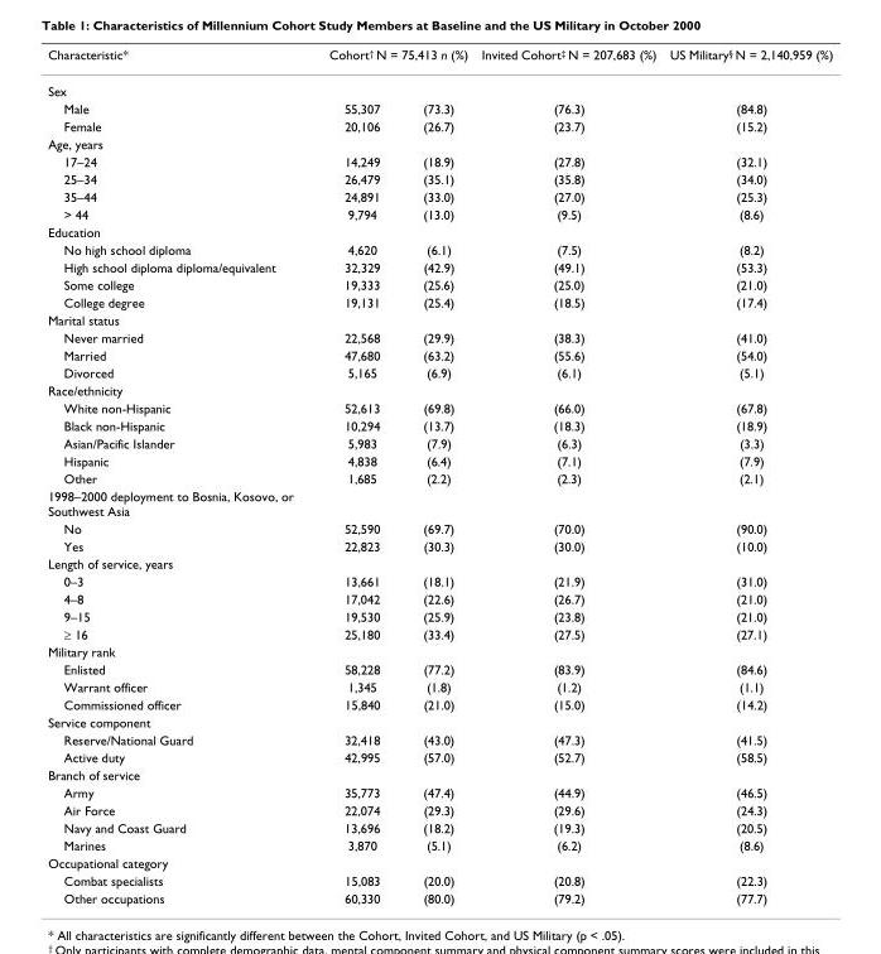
<table><thead><tr><td rowspan="2">Characteristic* Sex</td><td colspan="2">Cohort<sup>†</sup> N = 75,413 n (%)</td><td rowspan="2">Invited Cohort<sup>‡</sup> N = 207,683 (%)</td><td rowspan="2">US Military<sup>§</sup> N = 2,140,959 (%)</td></tr><tr><td></td><td></td></tr></thead><tbody><tr><td>Male</td><td>55,307</td><td>(73.3)</td><td>(76.3)</td><td>(84.8)</td></tr><tr><td>Female</td><td>20,106</td><td>(26.7)</td><td>(23.7)</td><td>(15.2)</td></tr><tr><td colspan="5">Age, years</td></tr><tr><td>17–24</td><td>14,249</td><td>(18.9)</td><td>(27.8)</td><td>(32.1)</td></tr><tr><td>25–34</td><td>26,479</td><td>(35.1)</td><td>(35.8)</td><td>(34.0)</td></tr><tr><td>35–44</td><td>24,891</td><td>(33.0)</td><td>(27.0)</td><td>(25.3)</td></tr><tr><td>&gt; 44</td><td>9,794</td><td>(13.0)</td><td>(9.5)</td><td>(8.6)</td></tr><tr><td colspan="5">Education</td></tr><tr><td>No high school diploma</td><td>4,620</td><td>(6.1)</td><td>(7.5)</td><td>(8.2)</td></tr><tr><td>High school diploma diploma/equivalent</td><td>32,329</td><td>(42.9)</td><td>(49.1)</td><td>(53.3)</td></tr><tr><td>Some college</td><td>19,333</td><td>(25.6)</td><td>(25.0)</td><td>(21.0)</td></tr><tr><td>College degree</td><td>19,131</td><td>(25.4)</td><td>(18.5)</td><td>(17.4)</td></tr><tr><td colspan="5">Marital status</td></tr><tr><td>Never married</td><td>22,568</td><td>(29.9)</td><td>(38.3)</td><td>(41.0)</td></tr><tr><td>Married</td><td>47,680</td><td>(63.2)</td><td>(55.6)</td><td>(54.0)</td></tr><tr><td>Divorced</td><td>5,165</td><td>(6.9)</td><td>(6.1)</td><td>(5.1)</td></tr><tr><td colspan="5">Race/ethnicity</td></tr><tr><td>White non-Hispanic</td><td>52,613</td><td>(69.8)</td><td>(66.0)</td><td>(67.8)</td></tr><tr><td>Black non-Hispanic</td><td>10,294</td><td>(13.7)</td><td>(18.3)</td><td>(18.9)</td></tr><tr><td>Asian/Pacific Islander</td><td>5,983</td><td>(7.9)</td><td>(6.3)</td><td>(3.3)</td></tr><tr><td>Hispanic</td><td>4,838</td><td>(6.4)</td><td>(7.1)</td><td>(7.9)</td></tr><tr><td>Other</td><td>1,685</td><td>(2.2)</td><td>(2.3)</td><td>(2.1)</td></tr><tr><td colspan="5">1998–2000 deployment to Bosnia, Kosovo, or Southwest Asia</td></tr><tr><td>No</td><td>52,590</td><td>(69.7)</td><td>(70.0)</td><td>(90.0)</td></tr><tr><td>Yes</td><td>22,823</td><td>(30.3)</td><td>(30.0)</td><td>(10.0)</td></tr><tr><td colspan="5">Length of service, years</td></tr><tr><td>0–3</td><td>13,661</td><td>(18.1)</td><td>(21.9)</td><td>(31.0)</td></tr><tr><td>4–8</td><td>17,042</td><td>(22.6)</td><td>(26.7)</td><td>(21.0)</td></tr><tr><td>9–15</td><td>19,530</td><td>(25.9)</td><td>(23.8)</td><td>(21.0)</td></tr><tr><td>≥ 16</td><td>25,180</td><td>(33.4)</td><td>(27.5)</td><td>(27.1)</td></tr><tr><td colspan="5">Military rank</td></tr><tr><td>Enlisted</td><td>58,228</td><td>(77.2)</td><td>(83.9)</td><td>(84.6)</td></tr><tr><td>Warrant officer</td><td>1,345</td><td>(1.8)</td><td>(1.2)</td><td>(1.1)</td></tr><tr><td>Commissioned officer</td><td>15,840</td><td>(21.0)</td><td>(15.0)</td><td>(14.2)</td></tr><tr><td colspan="5">Service component</td></tr><tr><td>Reserve/National Guard</td><td>32,418</td><td>(43.0)</td><td>(47.3)</td><td>(41.5)</td></tr><tr><td>Active duty</td><td>42,995</td><td>(57.0)</td><td>(52.7)</td><td>(58.5)</td></tr><tr><td colspan="5">Branch of service</td></tr><tr><td>Army</td><td>35,773</td><td>(47.4)</td><td>(44.9)</td><td>(46.5)</td></tr><tr><td>Air Force</td><td>22,074</td><td>(29.3)</td><td>(29.6)</td><td>(24.3)</td></tr><tr><td>Navy and Coast Guard</td><td>13,696</td><td>(18.2)</td><td>(19.3)</td><td>(20.5)</td></tr><tr><td>Marines</td><td>3,870</td><td>(5.1)</td><td>(6.2)</td><td>(8.6)</td></tr><tr><td colspan="5">Occupational category</td></tr><tr><td>Combat specialists</td><td>15,083</td><td>(20.0)</td><td>(20.8)</td><td>(22.3)</td></tr><tr><td>Other occupations</td><td>60,330</td><td>(80.0)</td><td>(79.2)</td><td>(77.7)</td></tr></tbody></table>